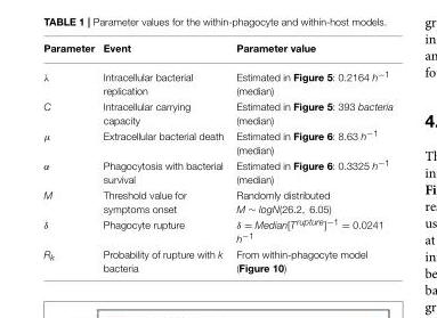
<table><thead><tr><td>Parameter</td><td>Event</td><td>Parameter value</td></tr></thead><tbody><tr><td>λ</td><td>Intracellular bacterial replication</td><td>Estimated in Figure 5: 0.2164 h<sup>−1</sup> (median)</td></tr><tr><td>C</td><td>Intracellular carrying capacity</td><td>Estimated in Figure 5: 393 bacteria (median)</td></tr><tr><td>µ</td><td>Extracellular bacterial death</td><td>Estimated in Figure 6: 8.63 h<sup>−1</sup> (median)</td></tr><tr><td>α</td><td>Phagocytosis with bacterial survival</td><td>Estimated in Figure 6: 0.3325 h<sup>−1</sup> (median)</td></tr><tr><td>M</td><td>Threshold value for symptoms onset</td><td>Randomly distributed M ∼ logN(26.2, 6.05)</td></tr><tr><td>δ</td><td>Phagocyte rupture</td><td>δ = Median[T<sup>rupture</sup>]<sup>−1</sup> = 0.0241 h<sup>−1</sup></td></tr><tr><td>R<sub>k</sub></td><td>Probability of rupture with k bacteria</td><td>From within-phagocyte model (Figure 10)</td></tr></tbody></table>